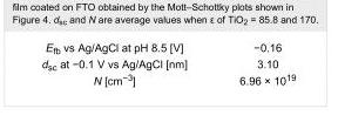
<table><tbody><tr><td>E<sub>fb</sub> vs Ag/AgCl at pH 8.5 [V]</td><td>−0.16</td></tr><tr><td>d<sub>sc</sub> at −0.1 V vs Ag/AgCl [nm]</td><td>3.10</td></tr><tr><td>N [cm<sup>−3</sup>]</td><td>6.96 × 10<sup>19</sup></td></tr></tbody></table>